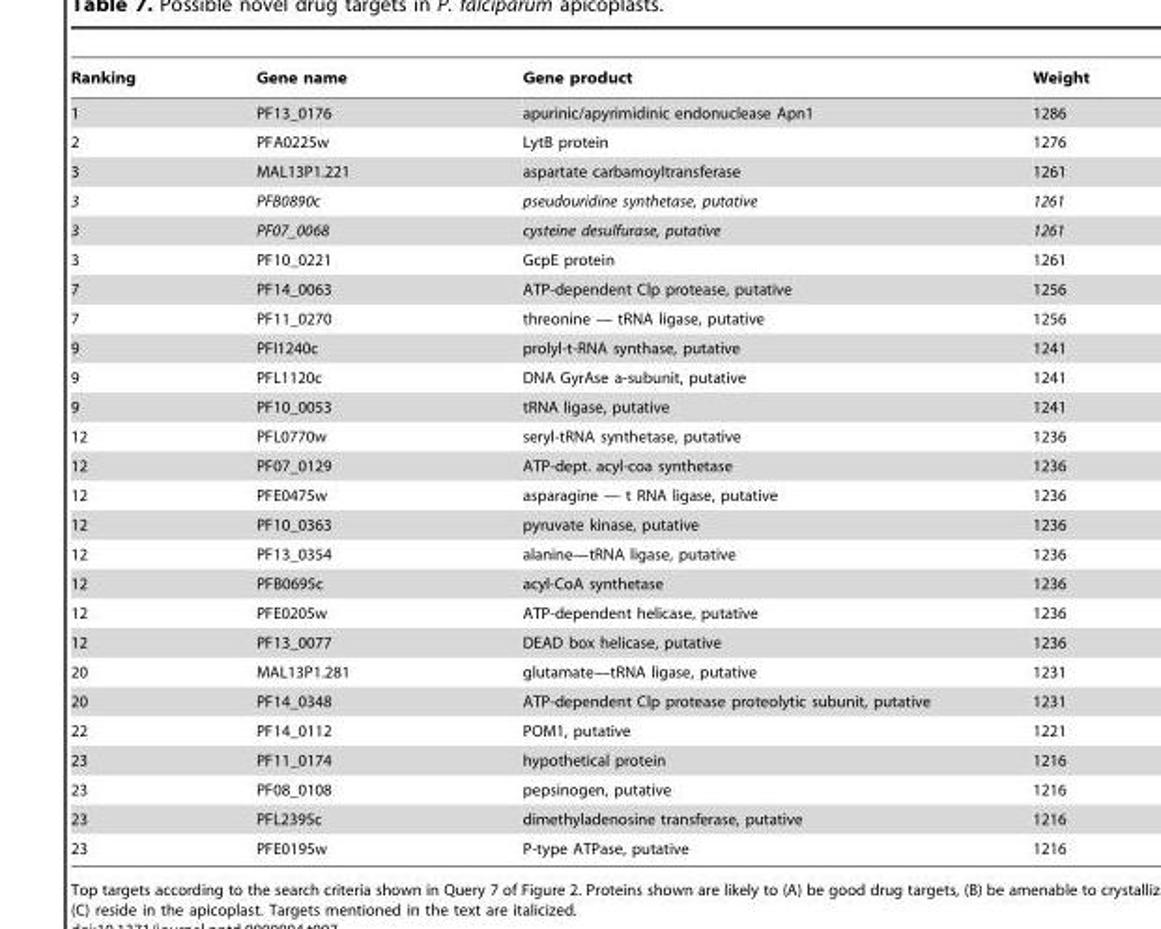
<table><thead><tr><td>Ranking</td><td>Gene name</td><td>Gene product</td><td>Weight</td></tr></thead><tbody><tr><td>1</td><td>PF13_0176</td><td>apurinic/apyrimidinic endonuclease Apn1</td><td>1286</td></tr><tr><td>2</td><td>PFA0225w</td><td>LytB protein</td><td>1276</td></tr><tr><td>3</td><td>MAL13P1.221</td><td>aspartate carbamoyltransferase</td><td>1261</td></tr><tr><td>3</td><td>PFB0890c</td><td>pseudouridine synthetase, putative</td><td>1261</td></tr><tr><td>3</td><td>PF07_0068</td><td>cysteine desulfurase, putative</td><td>1261</td></tr><tr><td>3</td><td>PF10_0221</td><td>GcpE protein</td><td>1261</td></tr><tr><td>7</td><td>PF14_0063</td><td>ATP-dependent Clp protease, putative</td><td>1256</td></tr><tr><td>7</td><td>PF11_0270</td><td>threonine — tRNA ligase, putative</td><td>1256</td></tr><tr><td>9</td><td>PFI1240c</td><td>prolyl-t-RNA synthase, putative</td><td>1241</td></tr><tr><td>9</td><td>PFL1120c</td><td>DNA GyrAse a-subunit, putative</td><td>1241</td></tr><tr><td>9</td><td>PF10_0053</td><td>tRNA ligase, putative</td><td>1241</td></tr><tr><td>12</td><td>PFL0770w</td><td>seryl-tRNA synthetase, putative</td><td>1236</td></tr><tr><td>12</td><td>PF07_0129</td><td>ATP-dept. acyl-coa synthetase</td><td>1236</td></tr><tr><td>12</td><td>PFE0475w</td><td>asparagine — t RNA ligase, putative</td><td>1236</td></tr><tr><td>12</td><td>PF10_0363</td><td>pyruvate kinase, putative</td><td>1236</td></tr><tr><td>12</td><td>PF13_0354</td><td>alanine—tRNA ligase, putative</td><td>1236</td></tr><tr><td>12</td><td>PFB0695c</td><td>acyl-CoA synthetase</td><td>1236</td></tr><tr><td>12</td><td>PFE0205w</td><td>ATP-dependent helicase, putative</td><td>1236</td></tr><tr><td>12</td><td>PF13_0077</td><td>DEAD box helicase, putative</td><td>1236</td></tr><tr><td>20</td><td>MAL13P1.281</td><td>glutamate—tRNA ligase, putative</td><td>1231</td></tr><tr><td>20</td><td>PF14_0348</td><td>ATP-dependent Clp protease proteolytic subunit, putative</td><td>1231</td></tr><tr><td>22</td><td>PF14_0112</td><td>POM1, putative</td><td>1221</td></tr><tr><td>23</td><td>PF11_0174</td><td>hypothetical protein</td><td>1216</td></tr><tr><td>23</td><td>PF08_0108</td><td>pepsinogen, putative</td><td>1216</td></tr><tr><td>23</td><td>PFL2395c</td><td>dimethyladenosine transferase, putative</td><td>1216</td></tr><tr><td>23</td><td>PFE0195w</td><td>P-type ATPase, putative</td><td>1216</td></tr></tbody></table>